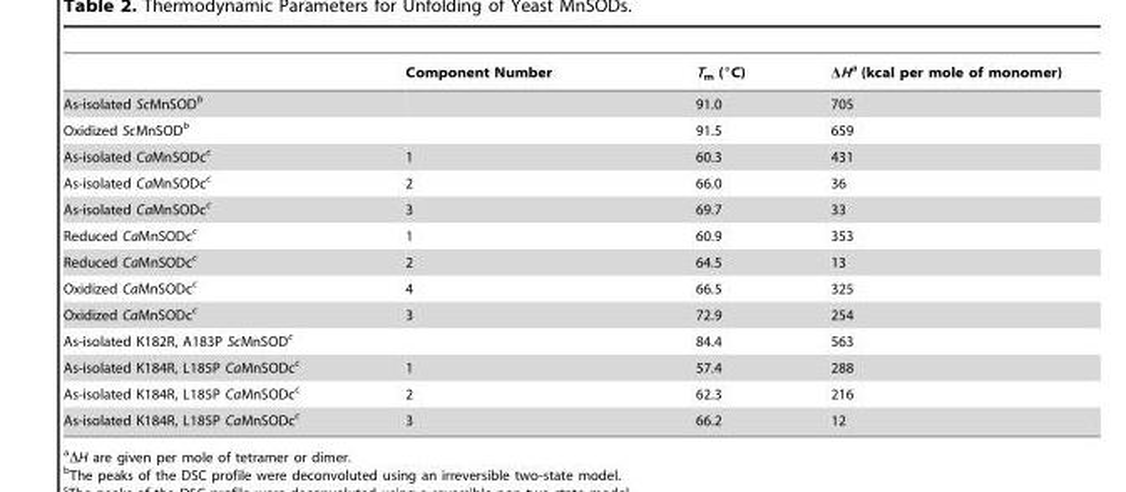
<table><thead><tr><td></td><td>Component Number</td><td>T<sub>m</sub> (°C)</td><td>ΔHa (kcal per mole of monomer)</td></tr></thead><tbody><tr><td>As-isolated ScMnSOD<sup>b</sup></td><td></td><td>91.0</td><td>705</td></tr><tr><td>Oxidized ScMnSOD<sup>b</sup></td><td></td><td>91.5</td><td>659</td></tr><tr><td>As-isolated CaMnSODc<sup>c</sup></td><td>1</td><td>60.3</td><td>431</td></tr><tr><td>As-isolated CaMnSODc<sup>c</sup></td><td>2</td><td>66.0</td><td>36</td></tr><tr><td>As-isolated CaMnSODc<sup>c</sup></td><td>3</td><td>69.7</td><td>33</td></tr><tr><td>Reduced CaMnSODc<sup>c</sup></td><td>1</td><td>60.9</td><td>353</td></tr><tr><td>Reduced CaMnSODc<sup>c</sup></td><td>2</td><td>64.5</td><td>13</td></tr><tr><td>Oxidized CaMnSODc<sup>c</sup></td><td>4</td><td>66.5</td><td>325</td></tr><tr><td>Oxidized CaMnSODc<sup>c</sup></td><td>3</td><td>72.9</td><td>254</td></tr><tr><td>As-isolated K182R, A183P ScMnSOD<sup>c</sup></td><td></td><td>84.4</td><td>563</td></tr><tr><td>As-isolated K184R, L185P CaMnSODc<sup>c</sup></td><td>1</td><td>57.4</td><td>288</td></tr><tr><td>As-isolated K184R, L185P CaMnSODc<sup>c</sup></td><td>2</td><td>62.3</td><td>216</td></tr><tr><td>As-isolated K184R, L185P CaMnSODc<sup>c</sup></td><td>3</td><td>66.2</td><td>12</td></tr></tbody></table>